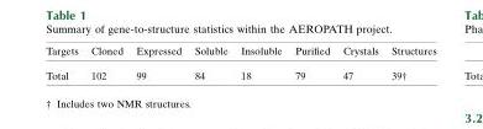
<table><thead><tr><td>Targets</td><td>Cloned</td><td>Expressed</td><td>Soluble</td><td>Insoluble</td><td>Purified</td><td>Crystals</td><td>Structures</td></tr></thead><tbody><tr><td>Total</td><td>102</td><td>99</td><td>84</td><td>18</td><td>79</td><td>47</td><td>39†</td></tr></tbody></table>